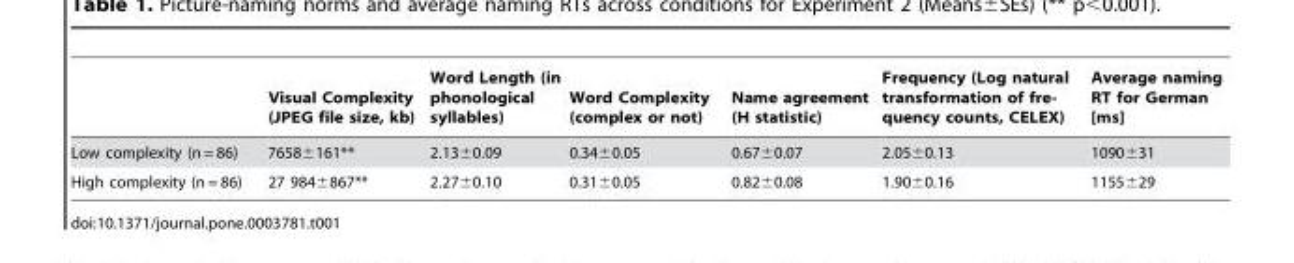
<table><thead><tr><td></td><td>Visual Complexity (JPEG file size, kb)</td><td>Word Length (in phonological syllables)</td><td>Word Complexity (complex or not)</td><td>Name agreement (H statistic)</td><td>Frequency (Log natural transformation of fre- quency counts, CELEX)</td><td>Average naming RT for German [ms]</td></tr></thead><tbody><tr><td>Low complexity (n = 86)</td><td>7658±161**</td><td>2.13±0.09</td><td>0.34±0.05</td><td>0.67±0.07</td><td>2.05±0.13</td><td>1090±31</td></tr><tr><td>High complexity (n = 86)</td><td>27 984±867**</td><td>2.27±0.10</td><td>0.31±0.05</td><td>0.82±0.08</td><td>1.90±0.16</td><td>1155±29</td></tr></tbody></table>